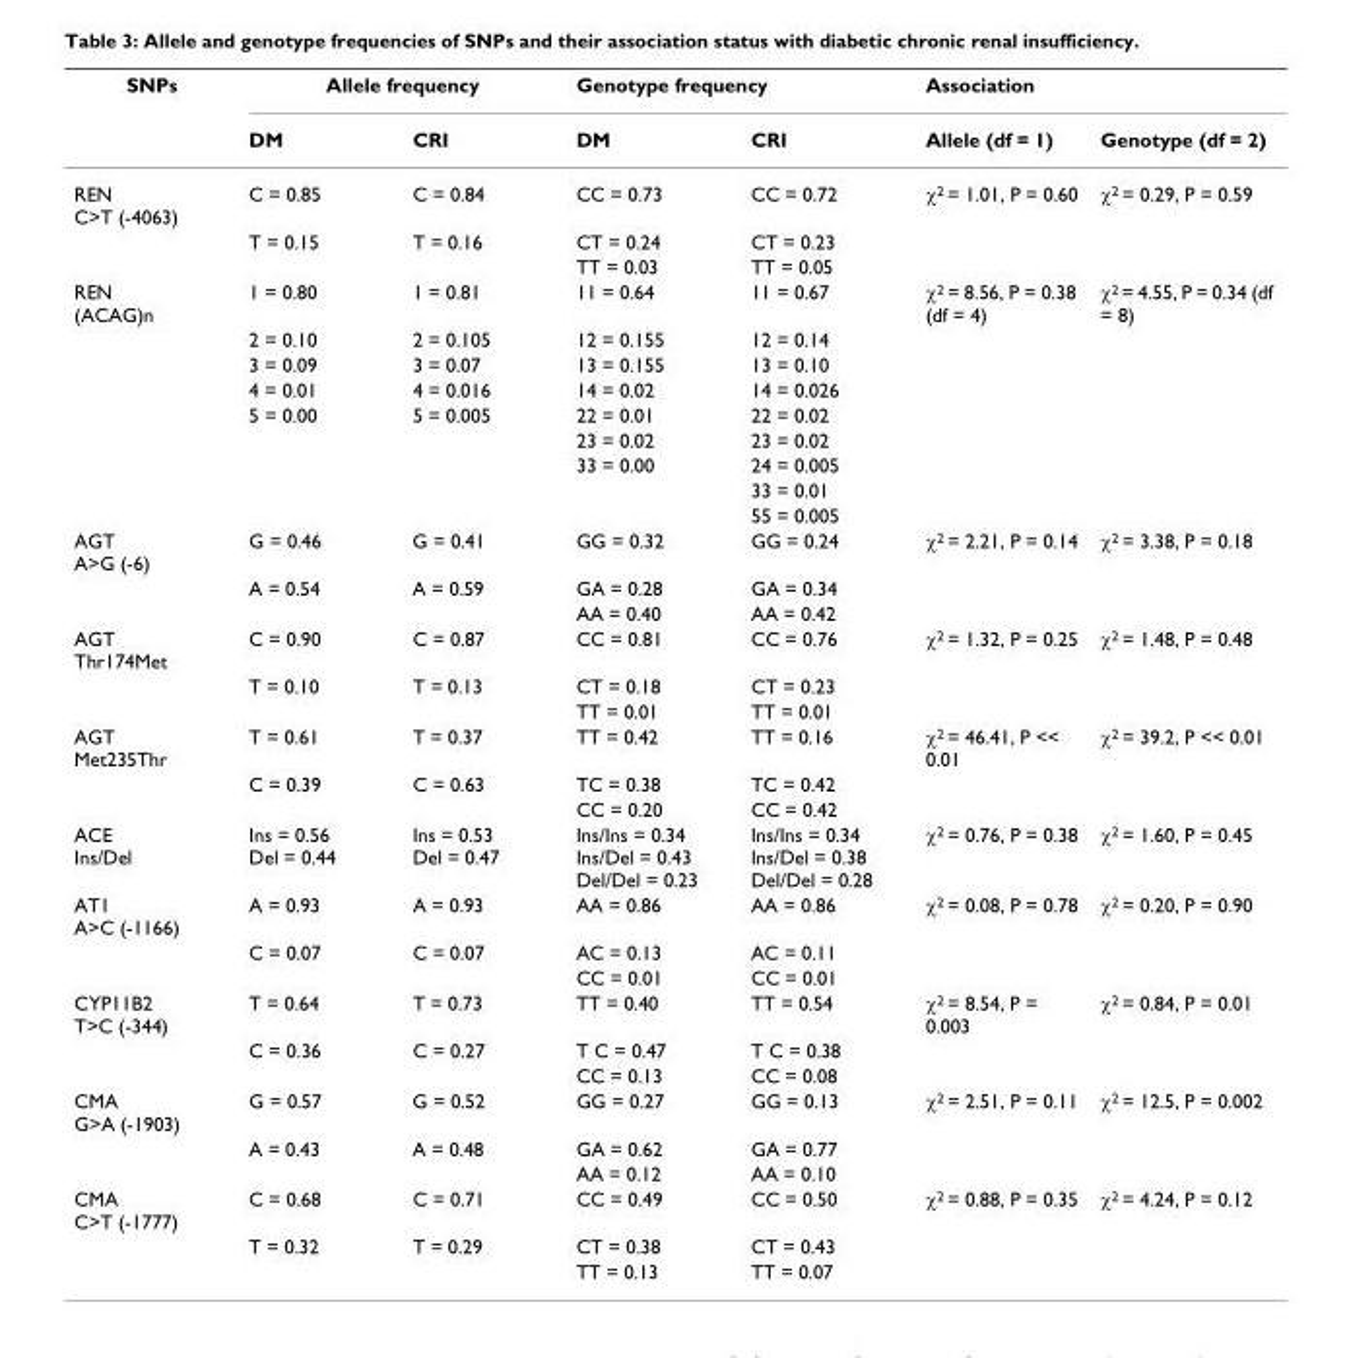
<table><thead><tr><td rowspan="2">SNPs</td><td colspan="2">Allele frequency</td><td colspan="2">Genotype frequency</td><td colspan="2">Association</td></tr><tr><td>DM</td><td>CRI</td><td>DM</td><td>CRI</td><td>Allele (df = 1)</td><td>Genotype (df = 2)</td></tr></thead><tbody><tr><td rowspan="3">REN C&gt;T (-4063)</td><td>C = 0.85</td><td>C = 0.84</td><td>CC = 0.73</td><td>CC = 0.72</td><td>χ<sup>2</sup> = 1.01, P = 0.60</td><td>χ<sup>2</sup> = 0.29, P = 0.59</td></tr><tr><td>T = 0.15</td><td>T = 0.16</td><td>CT = 0.24</td><td>CT = 0.23</td><td></td><td></td></tr><tr><td></td><td></td><td>TT = 0.03</td><td>TT = 0.05</td><td></td><td></td></tr><tr><td rowspan="9">REN (ACAG)n</td><td>1 = 0.80</td><td>1 = 0.81</td><td>11 = 0.64</td><td>11 = 0.67</td><td>χ<sup>2</sup> = 8.56, P = 0.38 (df = 4)</td><td>χ<sup>2</sup> = 4.55, P = 0.34 (df = 8)</td></tr><tr><td>2 = 0.10</td><td>2 = 0.105</td><td>12 = 0.155</td><td>12 = 0.14</td><td></td><td></td></tr><tr><td>3 = 0.09</td><td>3 = 0.07</td><td>13 = 0.155</td><td>13 = 0.10</td><td></td><td></td></tr><tr><td>4 = 0.01</td><td>4 = 0.016</td><td>14 = 0.02</td><td>14 = 0.026</td><td></td><td></td></tr><tr><td>5 = 0.00</td><td>5 = 0.005</td><td>22 = 0.01</td><td>22 = 0.02</td><td></td><td></td></tr><tr><td></td><td></td><td>23 = 0.02</td><td>23 = 0.02</td><td></td><td></td></tr><tr><td></td><td></td><td>33 = 0.00</td><td>24 = 0.005</td><td></td><td></td></tr><tr><td></td><td></td><td></td><td>33 = 0.01</td><td></td><td></td></tr><tr><td></td><td></td><td></td><td>55 = 0.005</td><td></td><td></td></tr><tr><td rowspan="3">AGT A&gt;G (-6)</td><td>G = 0.46</td><td>G = 0.41</td><td>GG = 0.32</td><td>GG = 0.24</td><td>χ<sup>2</sup> = 2.21, P = 0.14</td><td>χ<sup>2</sup> = 3.38, P = 0.18</td></tr><tr><td>A = 0.54</td><td>A = 0.59</td><td>GA = 0.28</td><td>GA = 0.34</td><td></td><td></td></tr><tr><td></td><td></td><td>AA = 0.40</td><td>AA = 0.42</td><td></td><td></td></tr><tr><td rowspan="3">AGT Thr174Met</td><td>C = 0.90</td><td>C = 0.87</td><td>CC = 0.81</td><td>CC = 0.76</td><td>χ<sup>2</sup> = 1.32, P = 0.25</td><td>χ<sup>2</sup> = 1.48, P = 0.48</td></tr><tr><td>T = 0.10</td><td>T = 0.13</td><td>CT = 0.18</td><td>CT = 0.23</td><td></td><td></td></tr><tr><td></td><td></td><td>TT = 0.01</td><td>TT = 0.01</td><td></td><td></td></tr><tr><td rowspan="3">AGT Met235Thr</td><td>T = 0.61</td><td>T = 0.37</td><td>TT = 0.42</td><td>TT = 0.16</td><td>χ<sup>2</sup> = 46.41, P &lt;&lt; 0.01</td><td>χ<sup>2</sup> = 39.2, P &lt;&lt; 0.01</td></tr><tr><td>C = 0.39</td><td>C = 0.63</td><td>TC = 0.38</td><td>TC = 0.42</td><td></td><td></td></tr><tr><td></td><td></td><td>CC = 0.20</td><td>CC = 0.42</td><td></td><td></td></tr><tr><td>ACE Ins/Del</td><td>Ins = 0.56 Del = 0.44</td><td>Ins = 0.53 Del = 0.47</td><td>Ins/Ins = 0.34 Ins/Del = 0.43 Del/Del = 0.23</td><td>Ins/Ins = 0.34 Ins/Del = 0.38 Del/Del = 0.28</td><td>χ<sup>2</sup> = 0.76, P = 0.38</td><td>χ<sup>2</sup> = 1.60, P = 0.45</td></tr><tr><td rowspan="3">AT1 A&gt;C (-1166)</td><td>A = 0.93</td><td>A = 0.93</td><td>AA = 0.86</td><td>AA = 0.86</td><td>χ<sup>2</sup> = 0.08, P = 0.78</td><td>χ<sup>2</sup> = 0.20, P = 0.90</td></tr><tr><td>C = 0.07</td><td>C = 0.07</td><td>AC = 0.13</td><td>AC = 0.11</td><td></td><td></td></tr><tr><td></td><td></td><td>CC = 0.01</td><td>CC = 0.01</td><td></td><td></td></tr><tr><td rowspan="3">CYP11B2 T&gt;C (-344)</td><td>T = 0.64</td><td>T = 0.73</td><td>TT = 0.40</td><td>TT = 0.54</td><td>χ<sup>2</sup> = 8.54, P = 0.003</td><td>χ<sup>2</sup> = 0.84, P = 0.01</td></tr><tr><td>C = 0.36</td><td>C = 0.27</td><td>T C = 0.47</td><td>T C = 0.38</td><td></td><td></td></tr><tr><td></td><td></td><td>CC = 0.13</td><td>CC = 0.08</td><td></td><td></td></tr><tr><td rowspan="3">CMA G&gt;A (-1903)</td><td>G = 0.57</td><td>G = 0.52</td><td>GG = 0.27</td><td>GG = 0.13</td><td>χ<sup>2</sup> = 2.51, P = 0.11</td><td>χ<sup>2</sup> = 12.5, P = 0.002</td></tr><tr><td>A = 0.43</td><td>A = 0.48</td><td>GA = 0.62</td><td>GA = 0.77</td><td></td><td></td></tr><tr><td></td><td></td><td>AA = 0.12</td><td>AA = 0.10</td><td></td><td></td></tr><tr><td rowspan="3">CMA C&gt;T (-1777)</td><td>C = 0.68</td><td>C = 0.71</td><td>CC = 0.49</td><td>CC = 0.50</td><td>χ<sup>2</sup> = 0.88, P = 0.35</td><td>χ<sup>2</sup> = 4.24, P = 0.12</td></tr><tr><td>T = 0.32</td><td>T = 0.29</td><td>CT = 0.38</td><td>CT = 0.43</td><td></td><td></td></tr><tr><td></td><td></td><td>TT = 0.13</td><td>TT = 0.07</td><td></td><td></td></tr></tbody></table>